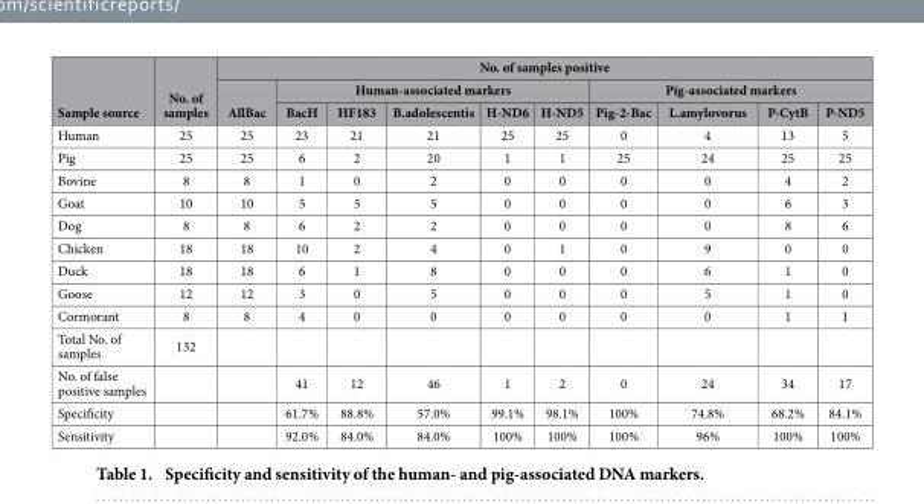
<table><thead><tr><td rowspan="3">Sample source</td><td rowspan="3">No. of samples</td><td colspan="10">No. of samples positive</td></tr><tr><td rowspan="2">AllBac</td><td colspan="5">Human-associated markers</td><td colspan="4">Pig-associated markers</td></tr><tr><td>BacH</td><td>HF183</td><td>B.adolescentis</td><td>H-ND6</td><td>H-ND5</td><td>Pig-2-Bac</td><td>L.amylovorus</td><td>P-CytB</td><td>P-ND5</td></tr></thead><tbody><tr><td>Human</td><td>25</td><td>25</td><td>23</td><td>21</td><td>21</td><td>25</td><td>25</td><td>0</td><td>4</td><td>13</td><td>5</td></tr><tr><td>Pig</td><td>25</td><td>25</td><td>6</td><td>2</td><td>20</td><td>1</td><td>1</td><td>25</td><td>24</td><td>25</td><td>25</td></tr><tr><td>Bovine</td><td>8</td><td>8</td><td>1</td><td>0</td><td>2</td><td>0</td><td>0</td><td>0</td><td>0</td><td>4</td><td>2</td></tr><tr><td>Goat</td><td>10</td><td>10</td><td>5</td><td>5</td><td>5</td><td>0</td><td>0</td><td>0</td><td>0</td><td>6</td><td>3</td></tr><tr><td>Dog</td><td>8</td><td>8</td><td>6</td><td>2</td><td>2</td><td>0</td><td>0</td><td>0</td><td>0</td><td>8</td><td>6</td></tr><tr><td>Chicken</td><td>18</td><td>18</td><td>10</td><td>2</td><td>4</td><td>0</td><td>1</td><td>0</td><td>9</td><td>0</td><td>0</td></tr><tr><td>Duck</td><td>18</td><td>18</td><td>6</td><td>1</td><td>8</td><td>0</td><td>0</td><td>0</td><td>6</td><td>1</td><td>0</td></tr><tr><td>Goose</td><td>12</td><td>12</td><td>3</td><td>0</td><td>5</td><td>0</td><td>0</td><td>0</td><td>5</td><td>1</td><td>0</td></tr><tr><td>Cormorant</td><td>8</td><td>8</td><td>4</td><td>0</td><td>0</td><td>0</td><td>0</td><td>0</td><td>0</td><td>1</td><td>1</td></tr><tr><td>Total No. of samples</td><td>132</td><td></td><td></td><td></td><td></td><td></td><td></td><td></td><td></td><td></td><td></td></tr><tr><td>No. of false positive samples</td><td></td><td></td><td>41</td><td>12</td><td>46</td><td>1</td><td>2</td><td>0</td><td>24</td><td>34</td><td>17</td></tr><tr><td>Specificity</td><td></td><td></td><td>61.7%</td><td>88.8%</td><td>57.0%</td><td>99.1%</td><td>98.1%</td><td>100%</td><td>74.8%</td><td>68.2%</td><td>84.1%</td></tr><tr><td>Sensitivity</td><td></td><td></td><td>92.0%</td><td>84.0%</td><td>84.0%</td><td>100%</td><td>100%</td><td>100%</td><td>96%</td><td>100%</td><td>100%</td></tr></tbody></table>